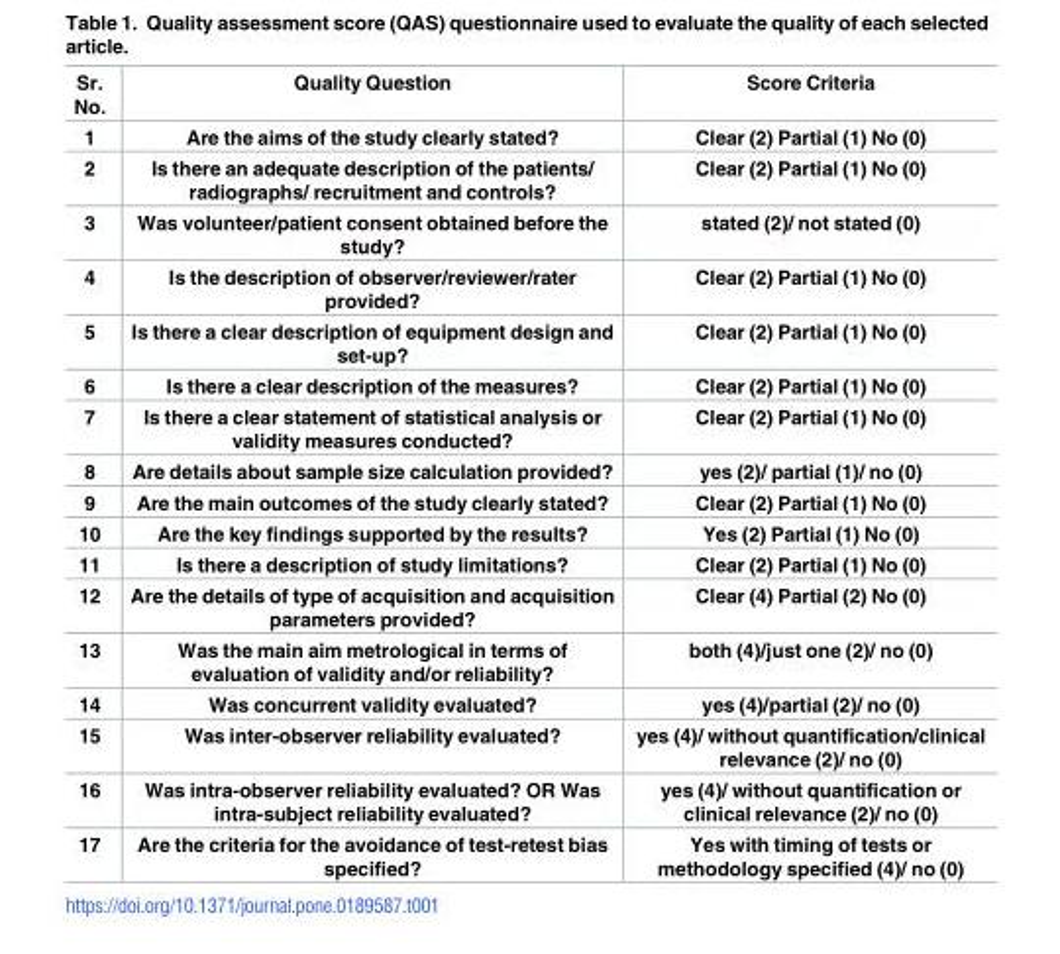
<table><thead><tr><td>Sr. No.</td><td>Quality Question</td><td>Score Criteria</td></tr></thead><tbody><tr><td>1</td><td>Are the aims of the study clearly stated?</td><td>Clear (2) Partial (1) No (0)</td></tr><tr><td>2</td><td>Is there an adequate description of the patients/ radiographs/ recruitment and controls?</td><td>Clear (2) Partial (1) No (0)</td></tr><tr><td>3</td><td>Was volunteer/patient consent obtained before the study?</td><td>stated (2)/ not stated (0)</td></tr><tr><td>4</td><td>Is the description of observer/reviewer/rater provided?</td><td>Clear (2) Partial (1) No (0)</td></tr><tr><td>5</td><td>Is there a clear description of equipment design and set-up?</td><td>Clear (2) Partial (1) No (0)</td></tr><tr><td>6</td><td>Is there a clear description of the measures?</td><td>Clear (2) Partial (1) No (0)</td></tr><tr><td>7</td><td>Is there a clear statement of statistical analysis or validity measures conducted?</td><td>Clear (2) Partial (1) No (0)</td></tr><tr><td>8</td><td>Are details about sample size calculation provided?</td><td>yes (2)/ partial (1)/ no (0)</td></tr><tr><td>9</td><td>Are the main outcomes of the study clearly stated?</td><td>Clear (2) Partial (1) No (0)</td></tr><tr><td>10</td><td>Are the key findings supported by the results?</td><td>Yes (2) Partial (1) No (0)</td></tr><tr><td>11</td><td>Is there a description of study limitations?</td><td>Clear (2) Partial (1) No (0)</td></tr><tr><td>12</td><td>Are the details of type of acquisition and acquisition parameters provided?</td><td>Clear (4) Partial (2) No (0)</td></tr><tr><td>13</td><td>Was the main aim metrological in terms of evaluation of validity and/or reliability?</td><td>both (4)/just one (2)/ no (0)</td></tr><tr><td>14</td><td>Was concurrent validity evaluated?</td><td>yes (4)/partial (2)/ no (0)</td></tr><tr><td>15</td><td>Was inter-observer reliability evaluated?</td><td>yes (4)/ without quantification/clinical relevance (2)/ no (0)</td></tr><tr><td>16</td><td>Was intra-observer reliability evaluated? OR Was intra-subject reliability evaluated?</td><td>yes (4)/ without quantification or clinical relevance (2)/ no (0)</td></tr><tr><td>17</td><td>Are the criteria for the avoidance of test-retest bias specified?</td><td>Yes with timing of tests or methodology specified (4)/ no (0)</td></tr></tbody></table>